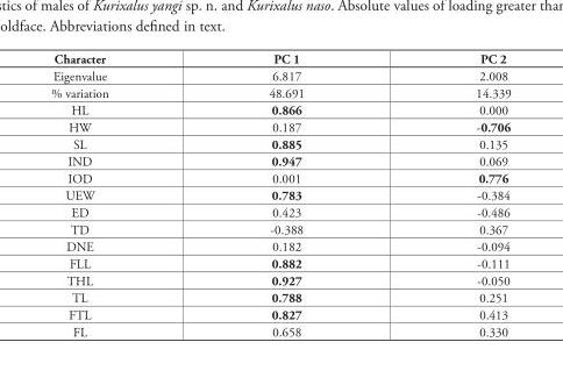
<table><thead><tr><td>Character</td><td>PC 1</td><td>PC 2</td></tr></thead><tbody><tr><td>Eigenvalue</td><td>6.817</td><td>2.008</td></tr><tr><td>% variation</td><td>48.691</td><td>14.339</td></tr><tr><td>HL</td><td>0.866</td><td>0.000</td></tr><tr><td>HW</td><td>0.187</td><td>-0.706</td></tr><tr><td>SL</td><td>0.885</td><td>0.135</td></tr><tr><td>IND</td><td>0.947</td><td>0.069</td></tr><tr><td>IOD</td><td>0.001</td><td>0.776</td></tr><tr><td>UEW</td><td>0.783</td><td>-0.384</td></tr><tr><td>ED</td><td>0.423</td><td>-0.486</td></tr><tr><td>TD</td><td>-0.388</td><td>0.367</td></tr><tr><td>DNE</td><td>0.182</td><td>-0.094</td></tr><tr><td>FLL</td><td>0.882</td><td>-0.111</td></tr><tr><td>THL</td><td>0.927</td><td>-0.050</td></tr><tr><td>TL</td><td>0.788</td><td>0.251</td></tr><tr><td>FTL</td><td>0.827</td><td>0.413</td></tr><tr><td>FL</td><td>0.658</td><td>0.330</td></tr></tbody></table>